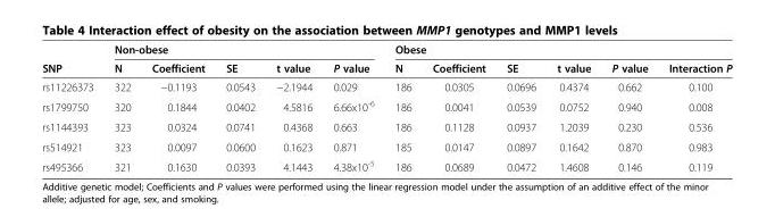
<table><thead><tr><td rowspan="2">SNP</td><td colspan="5">Non-obese</td><td colspan="6">Obese</td></tr><tr><td>N</td><td>Coefficient</td><td>SE</td><td>t value</td><td>P value</td><td>N</td><td>Coefficient</td><td>SE</td><td>t value</td><td>P value</td><td>Interaction P</td></tr></thead><tbody><tr><td>rs11226373</td><td>322</td><td>−0.1193</td><td>0.0543</td><td>−2.1944</td><td>0.029</td><td>186</td><td>0.0305</td><td>0.0696</td><td>0.4374</td><td>0.662</td><td>0.100</td></tr><tr><td>rs1799750</td><td>320</td><td>0.1844</td><td>0.0402</td><td>4.5816</td><td>6.66x10<sup>-6</sup></td><td>186</td><td>0.0041</td><td>0.0539</td><td>0.0752</td><td>0.940</td><td>0.008</td></tr><tr><td>rs1144393</td><td>323</td><td>0.0324</td><td>0.0741</td><td>0.4368</td><td>0.663</td><td>186</td><td>0.1128</td><td>0.0937</td><td>1.2039</td><td>0.230</td><td>0.536</td></tr><tr><td>rs514921</td><td>323</td><td>0.0097</td><td>0.0600</td><td>0.1623</td><td>0.871</td><td>185</td><td>0.0147</td><td>0.0897</td><td>0.1642</td><td>0.870</td><td>0.983</td></tr><tr><td>rs495366</td><td>321</td><td>0.1630</td><td>0.0393</td><td>4.1443</td><td>4.38x10<sup>-5</sup></td><td>186</td><td>0.0689</td><td>0.0472</td><td>1.4608</td><td>0.146</td><td>0.119</td></tr></tbody></table>